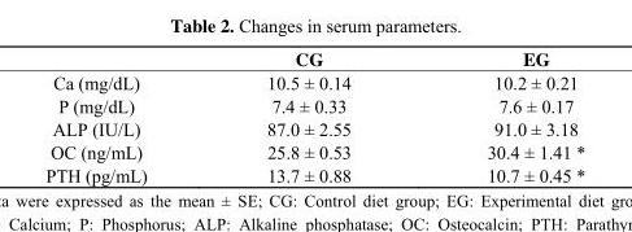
<table><thead><tr><td></td><td>CG</td><td>EG</td></tr></thead><tbody><tr><td>Ca (mg/dL)</td><td>10.5 ± 0.14</td><td>10.2 ± 0.21</td></tr><tr><td>P (mg/dL)</td><td>7.4 ± 0.33</td><td>7.6 ± 0.17</td></tr><tr><td>ALP (IU/L)</td><td>87.0 ± 2.55</td><td>91.0 ± 3.18</td></tr><tr><td>OC (ng/mL)</td><td>25.8 ± 0.53</td><td>30.4 ± 1.41 *</td></tr><tr><td>PTH (pg/mL)</td><td>13.7 ± 0.88</td><td>10.7 ± 0.45 *</td></tr></tbody></table>